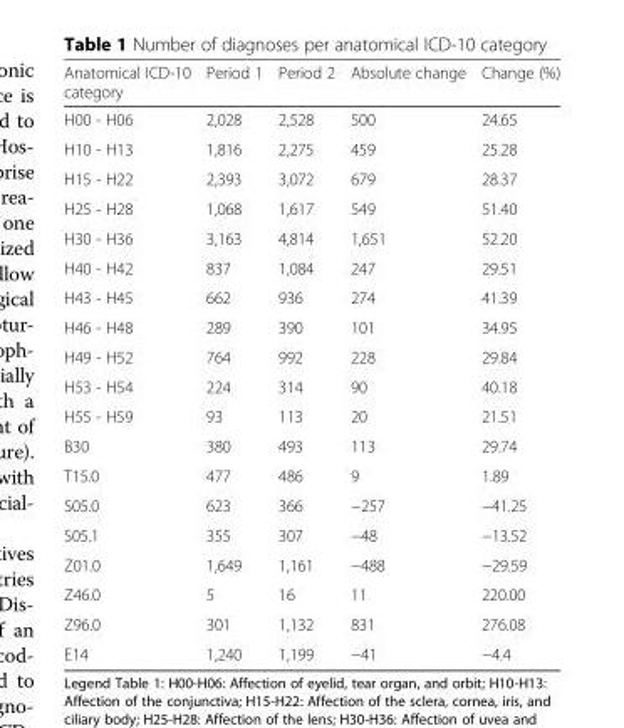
<table><thead><tr><td>Anatomical ICD-10 category</td><td>Period 1</td><td>Period 2</td><td>Absolute change</td><td>Change (%)</td></tr></thead><tbody><tr><td>H00 - H06</td><td>2,028</td><td>2,528</td><td>500</td><td>24.65</td></tr><tr><td>H10 - H13</td><td>1,816</td><td>2,275</td><td>459</td><td>25.28</td></tr><tr><td>H15 - H22</td><td>2,393</td><td>3,072</td><td>679</td><td>28.37</td></tr><tr><td>H25 - H28</td><td>1,068</td><td>1,617</td><td>549</td><td>51.40</td></tr><tr><td>H30 - H36</td><td>3,163</td><td>4,814</td><td>1,651</td><td>52.20</td></tr><tr><td>H40 - H42</td><td>837</td><td>1,084</td><td>247</td><td>29.51</td></tr><tr><td>H43 - H45</td><td>662</td><td>936</td><td>274</td><td>41.39</td></tr><tr><td>H46 - H48</td><td>289</td><td>390</td><td>101</td><td>34.95</td></tr><tr><td>H49 - H52</td><td>764</td><td>992</td><td>228</td><td>29.84</td></tr><tr><td>H53 - H54</td><td>224</td><td>314</td><td>90</td><td>40.18</td></tr><tr><td>H55 - H59</td><td>93</td><td>113</td><td>20</td><td>21.51</td></tr><tr><td>B30</td><td>380</td><td>493</td><td>113</td><td>29.74</td></tr><tr><td>T15.0</td><td>477</td><td>486</td><td>9</td><td>1.89</td></tr><tr><td>S05.0</td><td>623</td><td>366</td><td>−257</td><td>−41.25</td></tr><tr><td>S05.1</td><td>355</td><td>307</td><td>−48</td><td>−13.52</td></tr><tr><td>Z01.0</td><td>1,649</td><td>1,161</td><td>−488</td><td>−29.59</td></tr><tr><td>Z46.0</td><td>5</td><td>16</td><td>11</td><td>220.00</td></tr><tr><td>Z96.0</td><td>301</td><td>1,132</td><td>831</td><td>276.08</td></tr><tr><td>E14</td><td>1,240</td><td>1,199</td><td>−41</td><td>−4.4</td></tr></tbody></table>